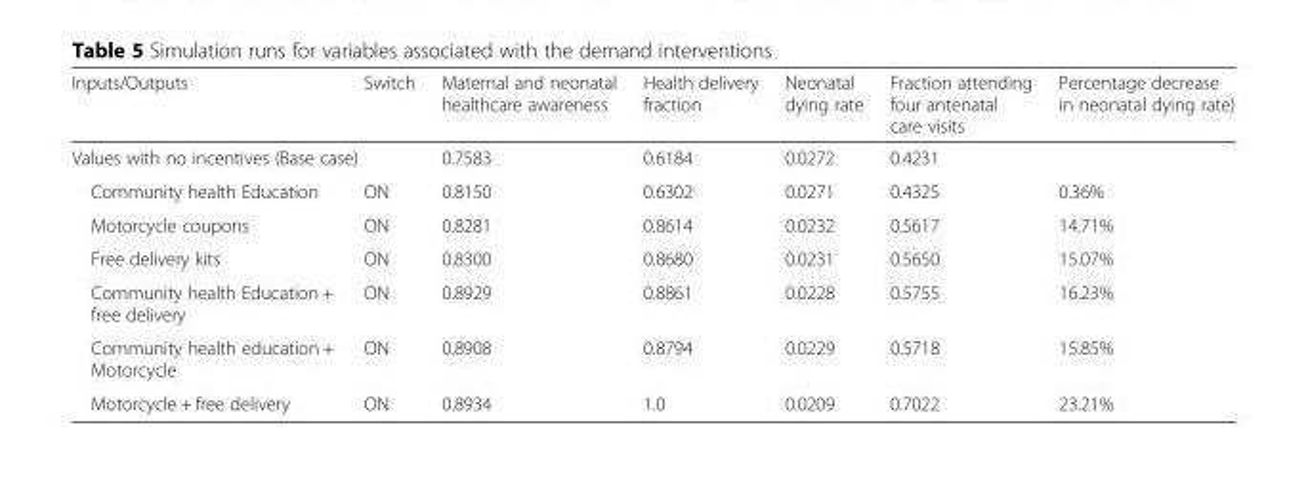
<table><thead><tr><td>Inputs/Outputs</td><td>Switch</td><td>Maternal and neonatal healthcare awareness</td><td>Health delivery fraction</td><td>Neonatal dying rate</td><td>Fraction attending four antenatal care visits</td><td>Percentage decrease in neonatal dying rate)</td></tr></thead><tbody><tr><td colspan="2">Values with no incentives (Base case)</td><td>0.7583</td><td>0.6184</td><td>0.0272</td><td>0.4231</td><td></td></tr><tr><td>Community health Education</td><td>ON</td><td>0.8150</td><td>0.6302</td><td>0.0271</td><td>0.4325</td><td>0.36%</td></tr><tr><td>Motorcycle coupons</td><td>ON</td><td>0.8281</td><td>0.8614</td><td>0.0232</td><td>0.5617</td><td>14.71%</td></tr><tr><td>Free delivery kits</td><td>ON</td><td>0.8300</td><td>0.8680</td><td>0.0231</td><td>0.5650</td><td>15.07%</td></tr><tr><td>Community health Education + free delivery</td><td>ON</td><td>0.8929</td><td>0.8861</td><td>0.0228</td><td>0.5755</td><td>16.23%</td></tr><tr><td>Community health education + Motorcycle</td><td>ON</td><td>0.8908</td><td>0.8794</td><td>0.0229</td><td>0.5718</td><td>15.85%</td></tr><tr><td>Motorcycle + free delivery</td><td>ON</td><td>0.8934</td><td>1.0</td><td>0.0209</td><td>0.7022</td><td>23.21%</td></tr></tbody></table>